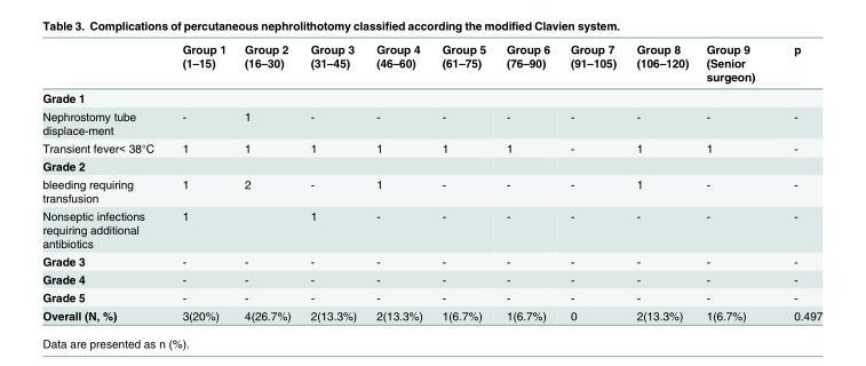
<table><thead><tr><td></td><td>Group 1 (1–15)</td><td>Group 2 (16–30)</td><td>Group 3 (31–45)</td><td>Group 4 (46–60)</td><td>Group 5 (61–75)</td><td>Group 6 (76–90)</td><td>Group 7 (91–105)</td><td>Group 8 (106–120)</td><td>Group 9 (Senior surgeon)</td><td>p</td></tr></thead><tbody><tr><td colspan="11">Grade 1</td></tr><tr><td>Nephrostomy tube displace-ment</td><td>-</td><td>1</td><td>-</td><td>-</td><td>-</td><td>-</td><td>-</td><td>-</td><td>-</td><td>-</td></tr><tr><td>Transient fever&lt; 38°C</td><td>1</td><td>1</td><td>1</td><td>1</td><td>1</td><td>1</td><td>-</td><td>1</td><td>1</td><td>-</td></tr><tr><td colspan="11">Grade 2</td></tr><tr><td>bleeding requiring transfusion</td><td>1</td><td>2</td><td>-</td><td>1</td><td>-</td><td>-</td><td>-</td><td>1</td><td>-</td><td>-</td></tr><tr><td>Nonseptic infections requiring additional antibiotics</td><td>1</td><td></td><td>1</td><td>-</td><td>-</td><td>-</td><td>-</td><td>-</td><td>-</td><td>-</td></tr><tr><td>Grade 3</td><td>-</td><td>-</td><td>-</td><td>-</td><td>-</td><td>-</td><td>-</td><td>-</td><td>-</td><td>-</td></tr><tr><td>Grade 4</td><td>-</td><td>-</td><td>-</td><td>-</td><td>-</td><td>-</td><td>-</td><td>-</td><td>-</td><td>-</td></tr><tr><td>Grade 5</td><td>-</td><td>-</td><td>-</td><td>-</td><td>-</td><td>-</td><td>-</td><td>-</td><td>-</td><td>-</td></tr><tr><td>Overall (N, %)</td><td>3(20%)</td><td>4(26.7%)</td><td>2(13.3%)</td><td>2(13.3%)</td><td>1(6.7%)</td><td>1(6.7%)</td><td>0</td><td>2(13.3%)</td><td>1(6.7%)</td><td>0.497</td></tr></tbody></table>